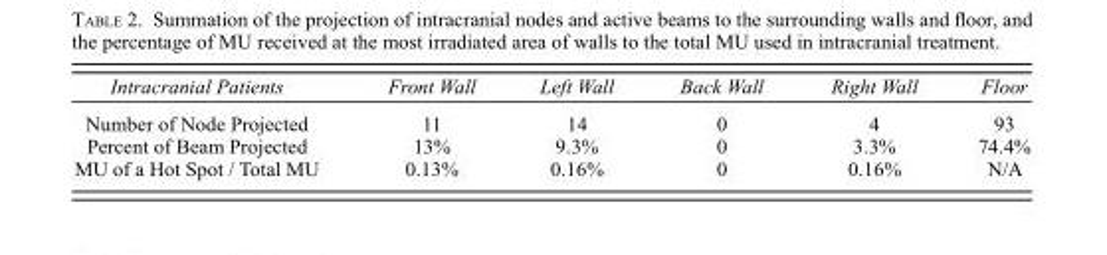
<table><thead><tr><td>Intracranial Patients</td><td>Front Wall</td><td>Left Wall</td><td>Back Wall</td><td>Right Wall</td><td>Floor</td></tr></thead><tbody><tr><td>Number of Node Projected</td><td>11</td><td>14</td><td>0</td><td>4</td><td>93</td></tr><tr><td>Percent of Beam Projected</td><td>13%</td><td>9.3%</td><td>0</td><td>3.3%</td><td>74.4%</td></tr><tr><td>MU of a Hot Spot / Total MU</td><td>0.13%</td><td>0.16%</td><td>0</td><td>0.16%</td><td>N/A</td></tr></tbody></table>